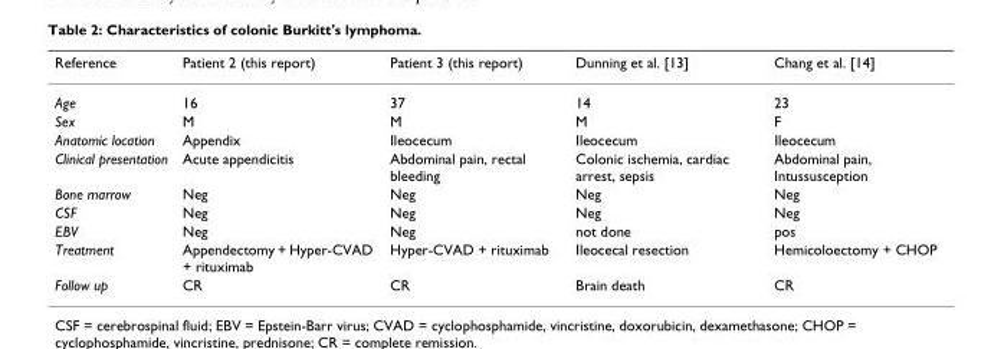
<table><thead><tr><td>Reference</td><td>Patient 2 (this report)</td><td>Patient 3 (this report)</td><td>Dunning et al. [13]</td><td>Chang et al. [14]</td></tr></thead><tbody><tr><td>Age</td><td>16</td><td>37</td><td>14</td><td>23</td></tr><tr><td>Sex</td><td>M</td><td>M</td><td>M</td><td>F</td></tr><tr><td>Anatomic location</td><td>Appendix</td><td>Ileocecum</td><td>Ileocecum</td><td>Ileocecum</td></tr><tr><td>Clinical presentation</td><td>Acute appendicitis</td><td>Abdominal pain, rectal bleeding</td><td>Colonic ischemia, cardiac arrest, sepsis</td><td>Abdominal pain, Intussusception</td></tr><tr><td>Bone marrow</td><td>Neg</td><td>Neg</td><td>Neg</td><td>Neg</td></tr><tr><td>CSF</td><td>Neg</td><td>Neg</td><td>Neg</td><td>Neg</td></tr><tr><td>EBV</td><td>Neg</td><td>Neg</td><td>not done</td><td>pos</td></tr><tr><td>Treatment</td><td>Appendectomy + Hyper-CVAD + rituximab</td><td>Hyper-CVAD + rituximab</td><td>Ileocecal resection</td><td>Hemicoloectomy + CHOP</td></tr><tr><td>Follow up</td><td>CR</td><td>CR</td><td>Brain death</td><td>CR</td></tr></tbody></table>